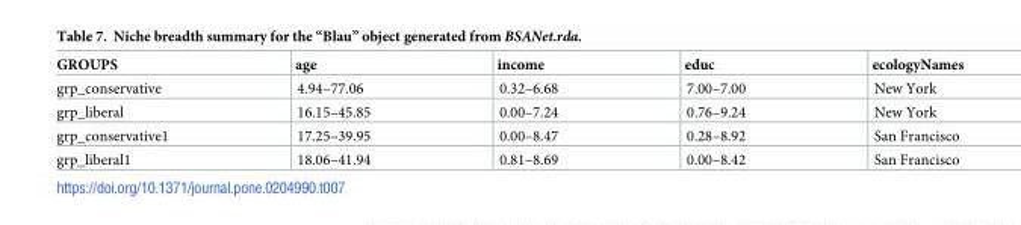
<table><thead><tr><td>GROUPS</td><td>age</td><td>income</td><td>educ</td><td>ecologyNames</td></tr></thead><tbody><tr><td>grp_conservative</td><td>4.94–77.06</td><td>0.32–6.68</td><td>7.00–7.00</td><td>New York</td></tr><tr><td>grp_liberal</td><td>16.15–45.85</td><td>0.00–7.24</td><td>0.76–9.24</td><td>New York</td></tr><tr><td>grp_conservative1</td><td>17.25–39.95</td><td>0.00–8.47</td><td>0.28–8.92</td><td>San Francisco</td></tr><tr><td>grp_liberal1</td><td>18.06–41.94</td><td>0.81–8.69</td><td>0.00–8.42</td><td>San Francisco</td></tr></tbody></table>